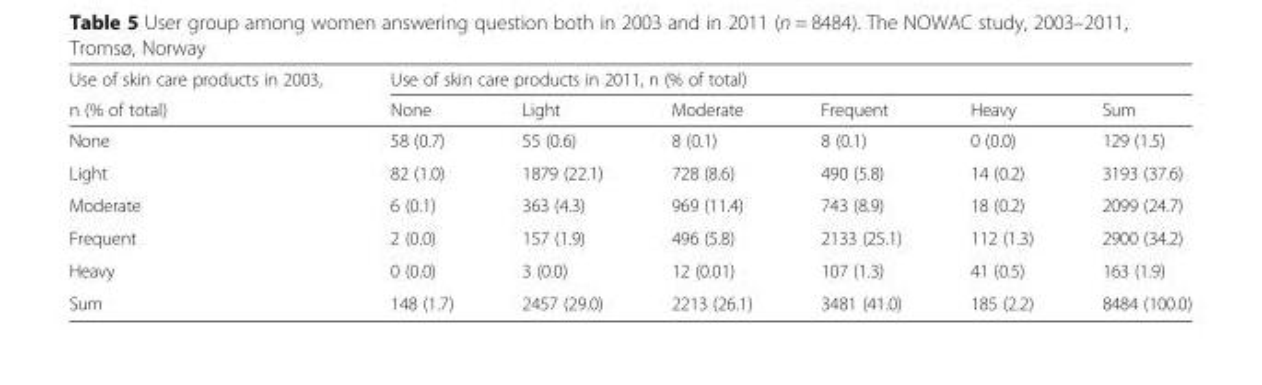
<table><thead><tr><td rowspan="2">Use of skin care products in 2003, n (% of total)</td><td colspan="6">Use of skin care products in 2011, n (% of total)</td></tr><tr><td>None</td><td>Light</td><td>Moderate</td><td>Frequent</td><td>Heavy</td><td>Sum</td></tr></thead><tbody><tr><td>None</td><td>58 (0.7)</td><td>55 (0.6)</td><td>8 (0.1)</td><td>8 (0.1)</td><td>0 (0.0)</td><td>129 (1.5)</td></tr><tr><td>Light</td><td>82 (1.0)</td><td>1879 (22.1)</td><td>728 (8.6)</td><td>490 (5.8)</td><td>14 (0.2)</td><td>3193 (37.6)</td></tr><tr><td>Moderate</td><td>6 (0.1)</td><td>363 (4.3)</td><td>969 (11.4)</td><td>743 (8.9)</td><td>18 (0.2)</td><td>2099 (24.7)</td></tr><tr><td>Frequent</td><td>2 (0.0)</td><td>157 (1.9)</td><td>496 (5.8)</td><td>2133 (25.1)</td><td>112 (1.3)</td><td>2900 (34.2)</td></tr><tr><td>Heavy</td><td>0 (0.0)</td><td>3 (0.0)</td><td>12 (0.01)</td><td>107 (1.3)</td><td>41 (0.5)</td><td>163 (1.9)</td></tr><tr><td>Sum</td><td>148 (1.7)</td><td>2457 (29.0)</td><td>2213 (26.1)</td><td>3481 (41.0)</td><td>185 (2.2)</td><td>8484 (100.0)</td></tr></tbody></table>